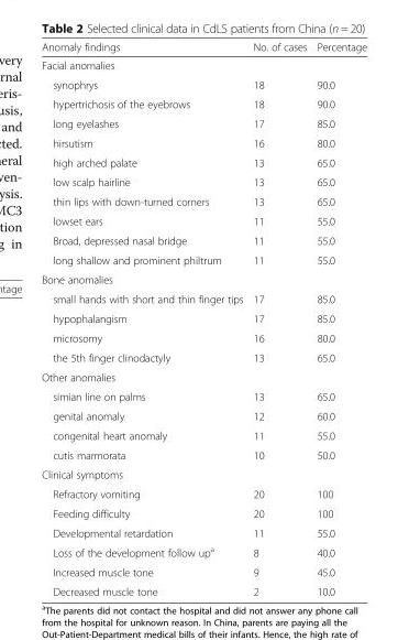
<table><thead><tr><td>Anomaly findings</td><td>No. of cases</td><td>Percentage</td></tr></thead><tbody><tr><td colspan="3">Facial anomalies</td></tr><tr><td>synophrys</td><td>18</td><td>90.0</td></tr><tr><td>hypertrichosis of the eyebrows</td><td>18</td><td>90.0</td></tr><tr><td>long eyelashes</td><td>17</td><td>85.0</td></tr><tr><td>hirsutism</td><td>16</td><td>80.0</td></tr><tr><td>high arched palate</td><td>13</td><td>65.0</td></tr><tr><td>low scalp hairline</td><td>13</td><td>65.0</td></tr><tr><td>thin lips with down-turned corners</td><td>13</td><td>65.0</td></tr><tr><td>lowset ears</td><td>11</td><td>55.0</td></tr><tr><td>Broad, depressed nasal bridge</td><td>11</td><td>55.0</td></tr><tr><td>long shallow and prominent philtrum</td><td>11</td><td>55.0</td></tr><tr><td colspan="3">Bone anomalies</td></tr><tr><td>small hands with short and thin finger tips</td><td>17</td><td>85.0</td></tr><tr><td>hypophalangism</td><td>17</td><td>85.0</td></tr><tr><td>microsomy</td><td>16</td><td>80.0</td></tr><tr><td>the 5th finger clinodactyly</td><td>13</td><td>65.0</td></tr><tr><td colspan="3">Other anomalies</td></tr><tr><td>simian line on palms</td><td>13</td><td>65.0</td></tr><tr><td>genital anomaly</td><td>12</td><td>60.0</td></tr><tr><td>congenital heart anomaly</td><td>11</td><td>55.0</td></tr><tr><td>cutis marmorata</td><td>10</td><td>50.0</td></tr><tr><td colspan="3">Clinical symptoms</td></tr><tr><td>Refractory vomiting</td><td>20</td><td>100</td></tr><tr><td>Feeding difficulty</td><td>20</td><td>100</td></tr><tr><td>Developmental retardation</td><td>11</td><td>55.0</td></tr><tr><td>Loss of the development follow up<sup>a</sup></td><td>8</td><td>40.0</td></tr><tr><td>Increased muscle tone</td><td>9</td><td>45.0</td></tr><tr><td>Decreased muscle tone</td><td>2</td><td>10.0</td></tr></tbody></table>